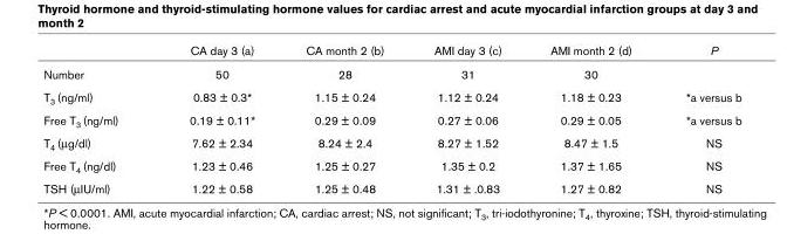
<table><thead><tr><td></td><td>CA day 3 (a)</td><td>CA month 2 (b)</td><td>AMI day 3 (c)</td><td>AMI month 2 (d)</td><td>P</td></tr></thead><tbody><tr><td>Number</td><td>50</td><td>28</td><td>31</td><td>30</td><td></td></tr><tr><td>T3 (ng/ml)</td><td>0.83 ± 0.3*</td><td>1.15 ± 0.24</td><td>1.12 ± 0.24</td><td>1.18 ± 0.23</td><td>*a versus b</td></tr><tr><td>Free T3 (ng/ml)</td><td>0.19 ± 0.11*</td><td>0.29 ± 0.09</td><td>0.27 ± 0.06</td><td>0.29 ± 0.05</td><td>*a versus b</td></tr><tr><td>T4 (µg/dl)</td><td>7.62 ± 2.34</td><td>8.24 ± 2.4</td><td>8.27 ± 1.52</td><td>8.47 ± 1.5</td><td>NS</td></tr><tr><td>Free T4 (ng/dl)</td><td>1.23 ± 0.46</td><td>1.25 ± 0.27</td><td>1.35 ± 0.2</td><td>1.37 ± 1.65</td><td>NS</td></tr><tr><td>TSH (µIU/ml)</td><td>1.22 ± 0.58</td><td>1.25 ± 0.48</td><td>1.31 ± .0.83</td><td>1.27 ± 0.82</td><td>NS</td></tr></tbody></table>